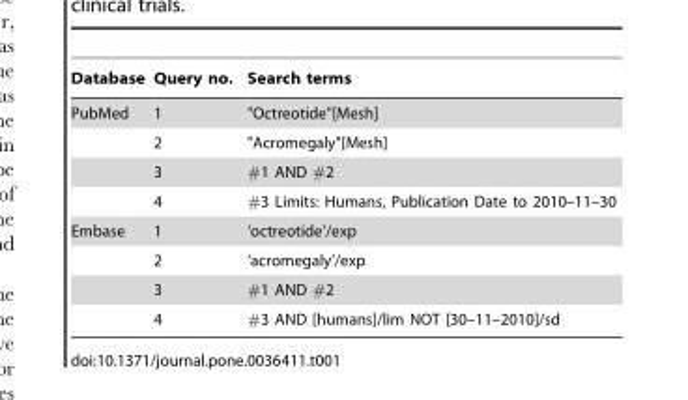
<table><thead><tr><td>Database</td><td>Query no.</td><td>Search terms</td></tr></thead><tbody><tr><td rowspan="4">PubMed</td><td>1</td><td>&quot;Octreotide&quot;[Mesh]</td></tr><tr><td>2</td><td>&quot;Acromegaly&quot;[Mesh]</td></tr><tr><td>3</td><td>#1 AND #2</td></tr><tr><td>4</td><td>#3 Limits: Humans, Publication Date to 2010–11–30</td></tr><tr><td rowspan="4">Embase</td><td>1</td><td>‘octreotide’/exp</td></tr><tr><td>2</td><td>‘acromegaly’/exp</td></tr><tr><td>3</td><td>#1 AND #2</td></tr><tr><td>4</td><td>#3 AND [humans]/lim NOT [30–11–2010]/sd</td></tr></tbody></table>